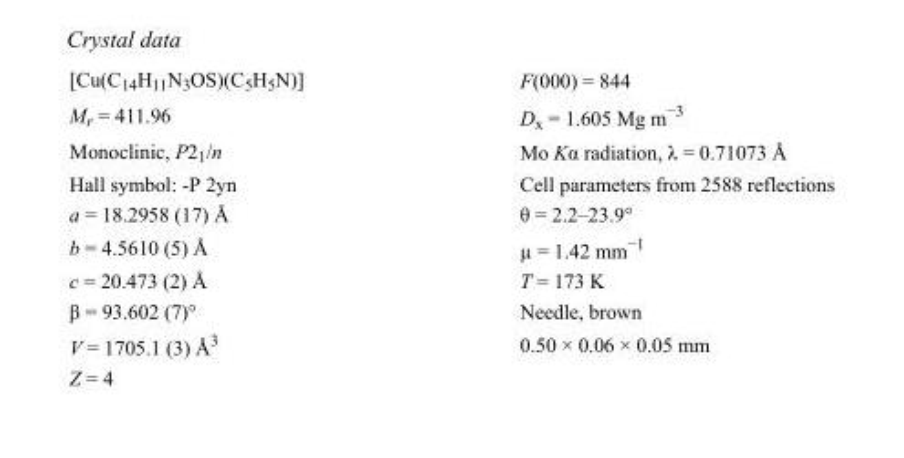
<table><tbody><tr><td>[Cu(C<sub>14</sub>H<sub>11</sub>N<sub>3</sub>OS)(C<sub>5</sub>H<sub>5</sub>N)]</td><td>F(000) = 844</td></tr><tr><td>M<sub>r</sub> = 411.96</td><td>D<sub>x</sub> = 1.605 Mg m<sup>−3</sup></td></tr><tr><td>Monoclinic, P2<sub>1</sub>/n</td><td>Mo Kα radiation, λ = 0.71073 Å</td></tr><tr><td>Hall symbol: -P 2yn</td><td>Cell parameters from 2588 reflections</td></tr><tr><td>a = 18.2958 (17) Å</td><td>θ = 2.2–23.9°</td></tr><tr><td>b = 4.5610 (5) Å</td><td>µ = 1.42 mm<sup>−1</sup></td></tr><tr><td>c = 20.473 (2) Å</td><td>T = 173 K</td></tr><tr><td>β = 93.602 (7)°</td><td>Needle, brown</td></tr><tr><td>V = 1705.1 (3) Å<sup>3</sup></td><td>0.50 × 0.06 × 0.05 mm</td></tr><tr><td>Z = 4</td><td></td></tr></tbody></table>